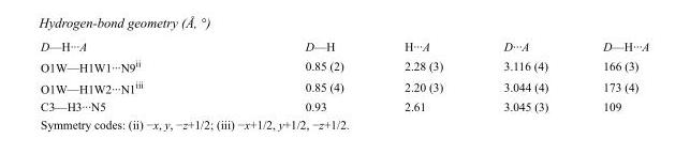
<table><tbody><tr><td>D—H···A</td><td>D—H</td><td>H···A</td><td>D···A</td><td>D—H···A</td></tr><tr><td>O1W—H1W1···N9<sup>ii</sup></td><td>0.85 (2)</td><td>2.28 (3)</td><td>3.116 (4)</td><td>166 (3)</td></tr><tr><td>O1W—H1W2···N1<sup>iii</sup></td><td>0.85 (4)</td><td>2.20 (3)</td><td>3.044 (4)</td><td>173 (4)</td></tr><tr><td>C3—H3···N5</td><td>0.93</td><td>2.61</td><td>3.045 (3)</td><td>109</td></tr></tbody></table>